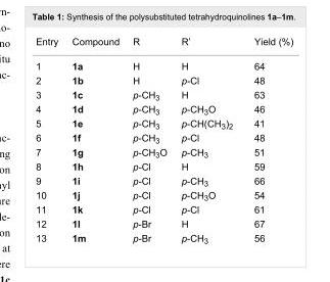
<table><tbody><tr><td>Entry</td><td>Compound</td><td>R</td><td>R’</td><td>Yield (%)</td></tr><tr><td>1</td><td>1a</td><td>H</td><td>H</td><td>64</td></tr><tr><td>2</td><td>1b</td><td>H</td><td>p-Cl</td><td>48</td></tr><tr><td>3</td><td>1c</td><td>p-CH<sub>3</sub></td><td>H</td><td>63</td></tr><tr><td>4</td><td>1d</td><td>p-CH<sub>3</sub></td><td>p-CH<sub>3</sub>O</td><td>46</td></tr><tr><td>5</td><td>1e</td><td>p-CH<sub>3</sub></td><td>p-CH(CH<sub>3</sub>)<sub>2</sub></td><td>41</td></tr><tr><td>6</td><td>1f</td><td>p-CH<sub>3</sub></td><td>p-Cl</td><td>48</td></tr><tr><td>7</td><td>1g</td><td>p-CH<sub>3</sub>O</td><td>p-CH<sub>3</sub></td><td>51</td></tr><tr><td>8</td><td>1h</td><td>p-Cl</td><td>H</td><td>59</td></tr><tr><td>9</td><td>1i</td><td>p-Cl</td><td>p-CH<sub>3</sub></td><td>66</td></tr><tr><td>10</td><td>1j</td><td>p-Cl</td><td>p-CH<sub>3</sub>O</td><td>54</td></tr><tr><td>11</td><td>1k</td><td>p-Cl</td><td>p-Cl</td><td>61</td></tr><tr><td>12</td><td>1l</td><td>p-Br</td><td>H</td><td>67</td></tr><tr><td>13</td><td>1m</td><td>p-Br</td><td>p-CH<sub>3</sub></td><td>56</td></tr></tbody></table>